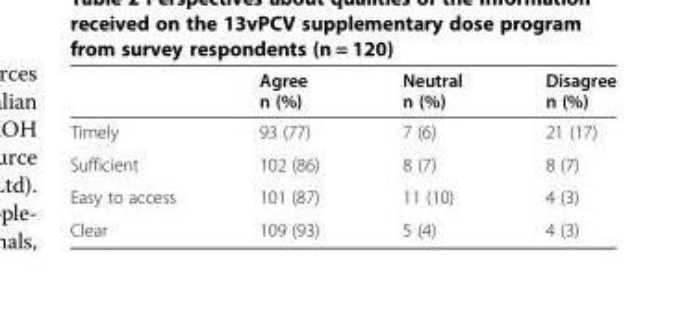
<table><thead><tr><td></td><td>Agree n (%)</td><td>Neutral n (%)</td><td>Disagree n (%)</td></tr></thead><tbody><tr><td>Timely</td><td>93 (77)</td><td>7 (6)</td><td>21 (17)</td></tr><tr><td>Sufficient</td><td>102 (86)</td><td>8 (7)</td><td>8 (7)</td></tr><tr><td>Easy to access</td><td>101 (87)</td><td>11 (10)</td><td>4 (3)</td></tr><tr><td>Clear</td><td>109 (93)</td><td>5 (4)</td><td>4 (3)</td></tr></tbody></table>